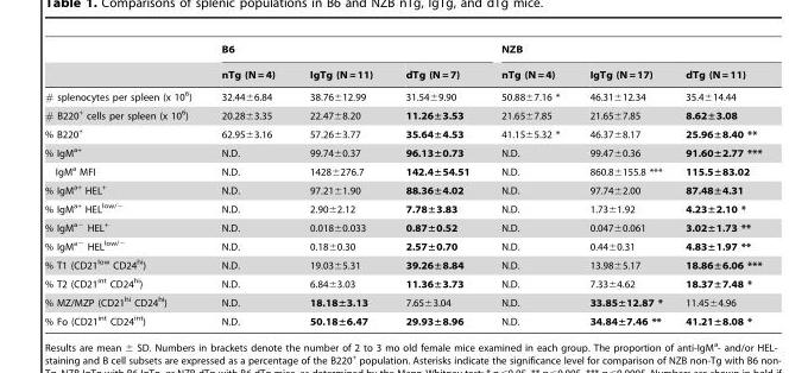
<table><thead><tr><td rowspan="2"></td><td colspan="3">B6</td><td colspan="3">NZB</td></tr><tr><td>nTg (N = 4)</td><td>IgTg (N = 11)</td><td>dTg (N = 7)</td><td>nTg (N = 4)</td><td>IgTg (N = 17)</td><td>dTg (N = 11)</td></tr></thead><tbody><tr><td># splenocytes per spleen (x 10<sup>6</sup>)</td><td>32.44±6.84</td><td>38.76±12.99</td><td>31.54±9.90</td><td>50.88±7.16 *</td><td>46.31±12.34</td><td>35.4±14.44</td></tr><tr><td># B220<sup>+</sup> cells per spleen (x 10<sup>6</sup>)</td><td>20.28±3.35</td><td>22.47±8.20</td><td>11.26±3.53</td><td>21.65±7.85</td><td>21.65±7.85</td><td>8.62±3.08</td></tr><tr><td>% B220<sup>+</sup></td><td>62.95±3.16</td><td>57.26±3.77</td><td>35.64±4.53</td><td>41.15±5.32 *</td><td>46.37±8.17</td><td>25.96±8.40 **</td></tr><tr><td>% IgM<sup>a+</sup></td><td>N.D.</td><td>99.74±0.37</td><td>96.13±0.73</td><td>N.D.</td><td>99.47±0.36</td><td>91.60±2.77 ***</td></tr><tr><td>IgM<sup>a</sup> MFI</td><td>N.D.</td><td>1428±276.7</td><td>142.4±54.51</td><td>N.D.</td><td>860.8±155.8 ***</td><td>115.5±83.02</td></tr><tr><td>% IgM<sup>a+</sup> HEL<sup>+</sup></td><td>N.D.</td><td>97.21±1.90</td><td>88.36±4.02</td><td>N.D.</td><td>97.74±2.00</td><td>87.48±4.31</td></tr><tr><td>% IgM<sup>a+</sup> HEL<sup>low/−</sup></td><td>N.D.</td><td>2.90±2.12</td><td>7.78±3.83</td><td>N.D.</td><td>1.73±1.92</td><td>4.23±2.10 *</td></tr><tr><td>% IgM<sup>a−</sup> HEL<sup>+</sup></td><td>N.D.</td><td>0.018±0.033</td><td>0.87±0.52</td><td>N.D.</td><td>0.047±0.061</td><td>3.02±1.73 **</td></tr><tr><td>% IgM<sup>a−</sup> HEL<sup>low/−</sup></td><td>N.D.</td><td>0.18±0.30</td><td>2.57±0.70</td><td>N.D.</td><td>0.44±0.31</td><td>4.83±1.97 **</td></tr><tr><td>% T1 (CD21<sup>low</sup> CD24<sup>hi</sup>)</td><td>N.D.</td><td>19.03±5.31</td><td>39.26±8.84</td><td>N.D.</td><td>13.98±5.17</td><td>18.86±6.06 ***</td></tr><tr><td>% T2 (CD21<sup>int</sup> CD24<sup>hi</sup>)</td><td>N.D.</td><td>6.84±3.03</td><td>11.36±3.73</td><td>N.D.</td><td>7.33±4.62</td><td>18.37±7.48 *</td></tr><tr><td>% MZ/MZP (CD21<sup>hi</sup> CD24<sup>hi</sup>)</td><td>N.D.</td><td>18.18±3.13</td><td>7.65±3.04</td><td>N.D.</td><td>33.85±12.87 *</td><td>11.45±4.96</td></tr><tr><td>% Fo (CD21<sup>int</sup> CD24<sup>int</sup>)</td><td>N.D.</td><td>50.18±6.47</td><td>29.93±8.96</td><td>N.D.</td><td>34.84±7.46 **</td><td>41.21±8.08 *</td></tr></tbody></table>